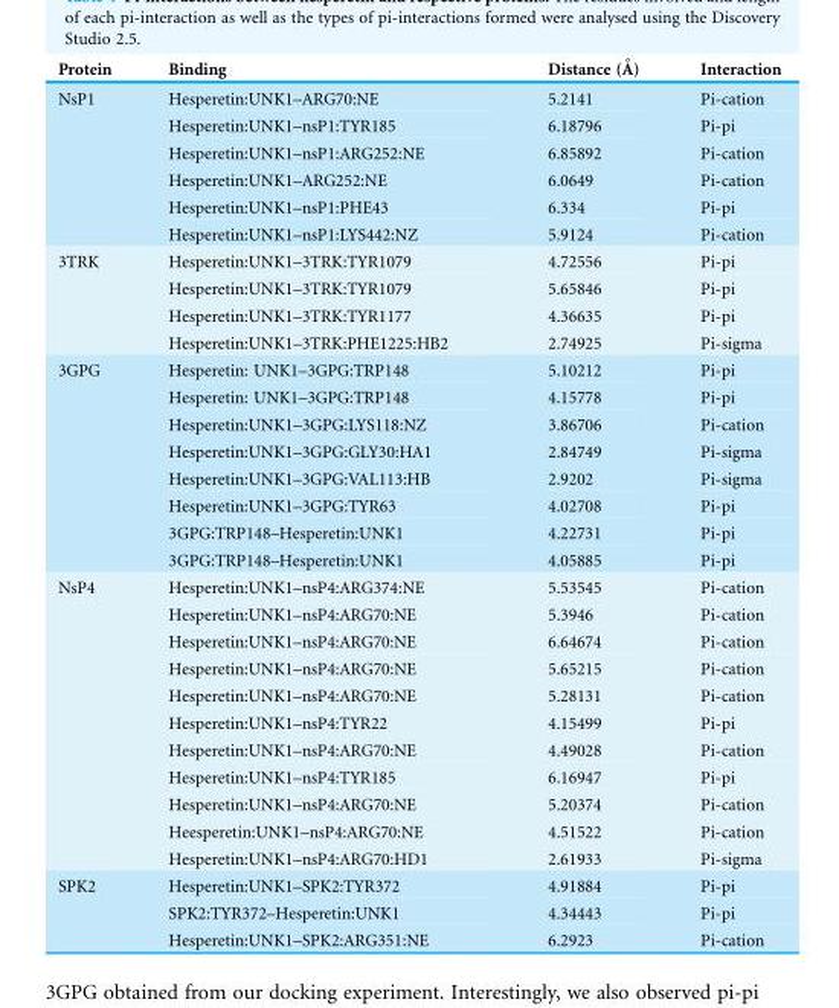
<table><thead><tr><td>Protein</td><td>Binding</td><td>Distance (A˚ )</td><td>Interaction</td></tr></thead><tbody><tr><td rowspan="6">NsP1</td><td>Hesperetin:UNK1–ARG70:NE</td><td>5.2141</td><td>Pi-cation</td></tr><tr><td>Hesperetin:UNK1–nsP1:TYR185</td><td>6.18796</td><td>Pi-pi</td></tr><tr><td>Hesperetin:UNK1–nsP1:ARG252:NE</td><td>6.85892</td><td>Pi-cation</td></tr><tr><td>Hesperetin:UNK1–ARG252:NE</td><td>6.0649</td><td>Pi-cation</td></tr><tr><td>Hesperetin:UNK1–nsP1:PHE43</td><td>6.334</td><td>Pi-pi</td></tr><tr><td>Hesperetin:UNK1–nsP1:LYS442:NZ</td><td>5.9124</td><td>Pi-cation</td></tr><tr><td rowspan="4">3TRK</td><td>Hesperetin:UNK1–3TRK:TYR1079</td><td>4.72556</td><td>Pi-pi</td></tr><tr><td>Hesperetin:UNK1–3TRK:TYR1079</td><td>5.65846</td><td>Pi-pi</td></tr><tr><td>Hesperetin:UNK1–3TRK:TYR1177</td><td>4.36635</td><td>Pi-pi</td></tr><tr><td>Hesperetin:UNK1–3TRK:PHE1225:HB2</td><td>2.74925</td><td>Pi-sigma</td></tr><tr><td rowspan="8">3GPG</td><td>Hesperetin: UNK1–3GPG:TRP148</td><td>5.10212</td><td>Pi-pi</td></tr><tr><td>Hesperetin: UNK1–3GPG:TRP148</td><td>4.15778</td><td>Pi-pi</td></tr><tr><td>Hesperetin:UNK1–3GPG:LYS118:NZ</td><td>3.86706</td><td>Pi-cation</td></tr><tr><td>Hesperetin:UNK1–3GPG:GLY30:HA1</td><td>2.84749</td><td>Pi-sigma</td></tr><tr><td>Hesperetin:UNK1–3GPG:VAL113:HB</td><td>2.9202</td><td>Pi-sigma</td></tr><tr><td>Hesperetin:UNK1–3GPG:TYR63</td><td>4.02708</td><td>Pi-pi</td></tr><tr><td>3GPG:TRP148–Hesperetin:UNK1</td><td>4.22731</td><td>Pi-pi</td></tr><tr><td>3GPG:TRP148–Hesperetin:UNK1</td><td>4.05885</td><td>Pi-pi</td></tr><tr><td rowspan="11">NsP4</td><td>Hesperetin:UNK1–nsP4:ARG374:NE</td><td>5.53545</td><td>Pi-cation</td></tr><tr><td>Hesperetin:UNK1–nsP4:ARG70:NE</td><td>5.3946</td><td>Pi-cation</td></tr><tr><td>Hesperetin:UNK1–nsP4:ARG70:NE</td><td>6.64674</td><td>Pi-cation</td></tr><tr><td>Hesperetin:UNK1–nsP4:ARG70:NE</td><td>5.65215</td><td>Pi-cation</td></tr><tr><td>Hesperetin:UNK1–nsP4:ARG70:NE</td><td>5.28131</td><td>Pi-cation</td></tr><tr><td>Hesperetin:UNK1–nsP4:TYR22</td><td>4.15499</td><td>Pi-pi</td></tr><tr><td>Hesperetin:UNK1–nsP4:ARG70:NE</td><td>4.49028</td><td>Pi-cation</td></tr><tr><td>Hesperetin:UNK1–nsP4:TYR185</td><td>6.16947</td><td>Pi-pi</td></tr><tr><td>Hesperetin:UNK1–nsP4:ARG70:NE</td><td>5.20374</td><td>Pi-cation</td></tr><tr><td>Heesperetin:UNK1–nsP4:ARG70:NE</td><td>4.51522</td><td>Pi-cation</td></tr><tr><td>Hesperetin:UNK1–nsP4:ARG70:HD1</td><td>2.61933</td><td>Pi-sigma</td></tr><tr><td rowspan="3">SPK2</td><td>Hesperetin:UNK1–SPK2:TYR372</td><td>4.91884</td><td>Pi-pi</td></tr><tr><td>SPK2:TYR372–Hesperetin:UNK1</td><td>4.34443</td><td>Pi-pi</td></tr><tr><td>Hesperetin:UNK1–SPK2:ARG351:NE</td><td>6.2923</td><td>Pi-cation</td></tr></tbody></table>